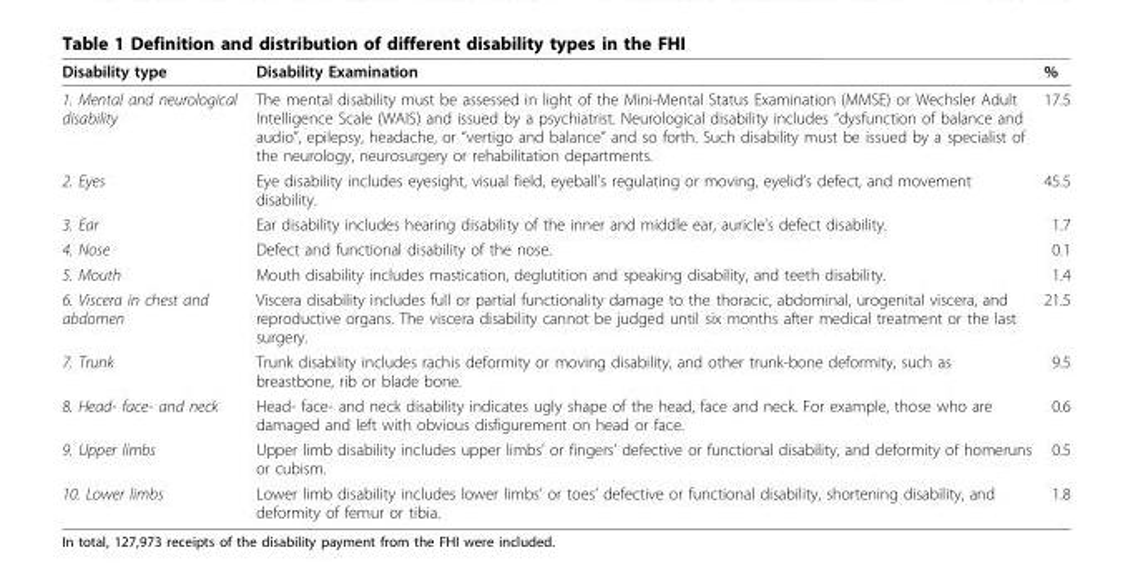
<table><thead><tr><td>Disability type</td><td>Disability Examination</td><td>%</td></tr></thead><tbody><tr><td>1. Mental and neurological disability</td><td>The mental disability must be assessed in light of the Mini-Mental Status Examination (MMSE) or Wechsler Adult Intelligence Scale (WAIS) and issued by a psychiatrist. Neurological disability includes “dysfunction of balance and audio”, epilepsy, headache, or “vertigo and balance” and so forth. Such disability must be issued by a specialist of the neurology, neurosurgery or rehabilitation departments.</td><td>17.5</td></tr><tr><td>2. Eyes</td><td>Eye disability includes eyesight, visual field, eyeball’s regulating or moving, eyelid’s defect, and movement disability.</td><td>45.5</td></tr><tr><td>3. Ear</td><td>Ear disability includes hearing disability of the inner and middle ear, auricle’s defect disability.</td><td>1.7</td></tr><tr><td>4. Nose</td><td>Defect and functional disability of the nose.</td><td>0.1</td></tr><tr><td>5. Mouth</td><td>Mouth disability includes mastication, deglutition and speaking disability, and teeth disability.</td><td>1.4</td></tr><tr><td>6. Viscera in chest and abdomen</td><td>Viscera disability includes full or partial functionality damage to the thoracic, abdominal, urogenital viscera, and reproductive organs. The viscera disability cannot be judged until six months after medical treatment or the last surgery.</td><td>21.5</td></tr><tr><td>7. Trunk</td><td>Trunk disability includes rachis deformity or moving disability, and other trunk-bone deformity, such as breastbone, rib or blade bone.</td><td>9.5</td></tr><tr><td>8. Head- face- and neck</td><td>Head- face- and neck disability indicates ugly shape of the head, face and neck. For example, those who are damaged and left with obvious disfigurement on head or face.</td><td>0.6</td></tr><tr><td>9. Upper limbs</td><td>Upper limb disability includes upper limbs’ or fingers’ defective or functional disability, and deformity of homeruns or cubism.</td><td>0.5</td></tr><tr><td>10. Lower limbs</td><td>Lower limb disability includes lower limbs’ or toes’ defective or functional disability, shortening disability, and deformity of femur or tibia.</td><td>1.8</td></tr></tbody></table>